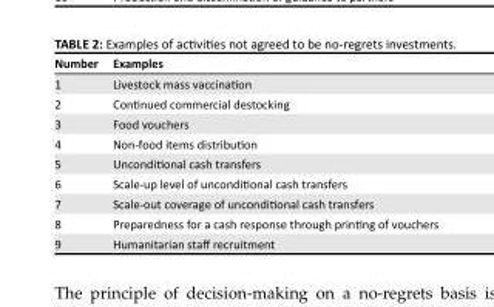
<table><thead><tr><td>Number</td><td>Examples</td></tr></thead><tbody><tr><td>1</td><td>Livestock mass vaccination</td></tr><tr><td>2</td><td>Continued commercial destocking</td></tr><tr><td>3</td><td>Food vouchers</td></tr><tr><td>4</td><td>Non-food items distribution</td></tr><tr><td>5</td><td>Unconditional cash transfers</td></tr><tr><td>6</td><td>Scale-up level of unconditional cash transfers</td></tr><tr><td>7</td><td>Scale-out coverage of unconditional cash transfers</td></tr><tr><td>8</td><td>Preparedness for a cash response through printing of vouchers</td></tr><tr><td>9</td><td>Humanitarian staff recruitment</td></tr></tbody></table>